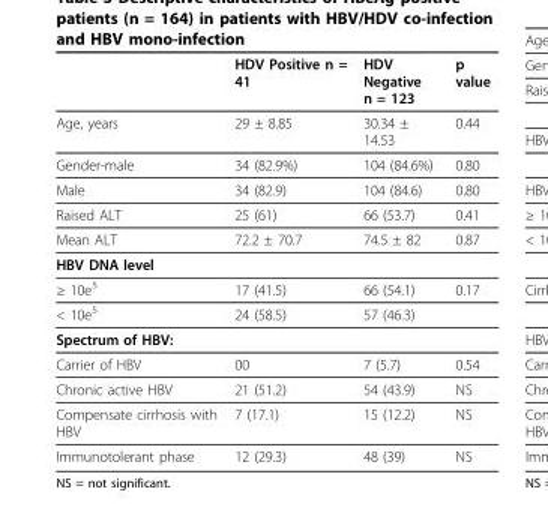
<table><thead><tr><td></td><td>HDV Positive n = 41</td><td>HDV Negative n = 123</td><td>p value</td></tr></thead><tbody><tr><td>Age, years</td><td>29 ± 8.85</td><td>30.34 ± 14.53</td><td>0.44</td></tr><tr><td>Gender-male</td><td>34 (82.9%)</td><td>104 (84.6%)</td><td>0.80</td></tr><tr><td>Male</td><td>34 (82.9)</td><td>104 (84.6)</td><td>0.80</td></tr><tr><td>Raised ALT</td><td>25 (61)</td><td>66 (53.7)</td><td>0.41</td></tr><tr><td>Mean ALT</td><td>72.2 ± 70.7</td><td>74.5 ± 82</td><td>0.87</td></tr><tr><td colspan="4">HBV DNA level</td></tr><tr><td>≥ 10e<sup>5</sup></td><td>17 (41.5)</td><td>66 (54.1)</td><td>0.17</td></tr><tr><td>&lt; 10e<sup>5</sup></td><td>24 (58.5)</td><td>57 (46.3)</td><td></td></tr><tr><td colspan="4">Spectrum of HBV:</td></tr><tr><td>Carrier of HBV</td><td>00</td><td>7 (5.7)</td><td>0.54</td></tr><tr><td>Chronic active HBV</td><td>21 (51.2)</td><td>54 (43.9)</td><td>NS</td></tr><tr><td>Compensate cirrhosis with HBV</td><td>7 (17.1)</td><td>15 (12.2)</td><td>NS</td></tr><tr><td>Immunotolerant phase</td><td>12 (29.3)</td><td>48 (39)</td><td>NS</td></tr></tbody></table>